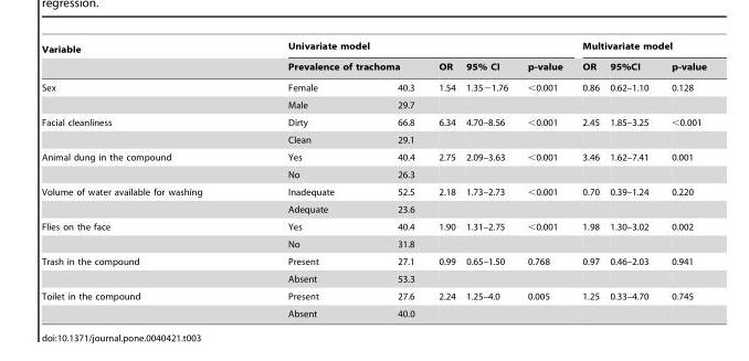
<table><thead><tr><td rowspan="3">Variable Sex</td><td colspan="5">Univariate model</td><td colspan="3">Multivariate model</td></tr><tr><td colspan="2">Prevalence of trachoma</td><td rowspan="2">OR 1.54</td><td rowspan="2">95% CI 1.35−1.76</td><td rowspan="2">p-value &lt;0.001</td><td rowspan="2">OR 0.86</td><td rowspan="2">95%CI 0.62–1.10</td><td rowspan="2">p-value 0.128</td></tr><tr><td>Female</td><td>40.3</td></tr></thead><tbody><tr><td></td><td>Male</td><td>29.7</td><td></td><td></td><td></td><td></td><td></td><td></td></tr><tr><td rowspan="2">Facial cleanliness</td><td>Dirty</td><td>66.8</td><td>6.34</td><td>4.70–8.56</td><td>&lt;0.001</td><td>2.45</td><td>1.85–3.25</td><td>&lt;0.001</td></tr><tr><td>Clean</td><td>29.1</td><td></td><td></td><td></td><td></td><td></td><td></td></tr><tr><td rowspan="2">Animal dung in the compound</td><td>Yes</td><td>40.4</td><td>2.75</td><td>2.09–3.63</td><td>&lt;0.001</td><td>3.46</td><td>1.62–7.41</td><td>0.001</td></tr><tr><td>No</td><td>26.3</td><td></td><td></td><td></td><td></td><td></td><td></td></tr><tr><td rowspan="2">Volume of water available for washing</td><td>Inadequate</td><td>52.5</td><td>2.18</td><td>1.73–2.73</td><td>&lt;0.001</td><td>0.70</td><td>0.39–1.24</td><td>0.220</td></tr><tr><td>Adequate</td><td>23.6</td><td></td><td></td><td></td><td></td><td></td><td></td></tr><tr><td rowspan="2">Flies on the face</td><td>Yes</td><td>40.4</td><td>1.90</td><td>1.31–2.75</td><td>&lt;0.001</td><td>1.98</td><td>1.30–3.02</td><td>0.002</td></tr><tr><td>No</td><td>31.8</td><td></td><td></td><td></td><td></td><td></td><td></td></tr><tr><td rowspan="2">Trash in the compound</td><td>Present</td><td>27.1</td><td>0.99</td><td>0.65–1.50</td><td>0.768</td><td>0.97</td><td>0.46–2.03</td><td>0.941</td></tr><tr><td>Absent</td><td>53.3</td><td></td><td></td><td></td><td></td><td></td><td></td></tr><tr><td rowspan="2">Toilet in the compound</td><td>Present</td><td>27.6</td><td>2.24</td><td>1.25–4.0</td><td>0.005</td><td>1.25</td><td>0.33–4.70</td><td>0.745</td></tr><tr><td>Absent</td><td>40.0</td><td></td><td></td><td></td><td></td><td></td><td></td></tr></tbody></table>